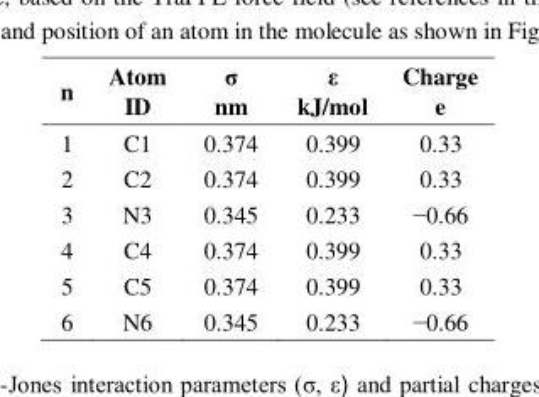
<table><thead><tr><td>n</td><td>Atom ID</td><td>σ nm</td><td>ε kJ/mol</td><td>Charge e</td></tr></thead><tbody><tr><td>1</td><td>C1</td><td>0.374</td><td>0.399</td><td>0.33</td></tr><tr><td>2</td><td>C2</td><td>0.374</td><td>0.399</td><td>0.33</td></tr><tr><td>3</td><td>N3</td><td>0.345</td><td>0.233</td><td>−0.66</td></tr><tr><td>4</td><td>C4</td><td>0.374</td><td>0.399</td><td>0.33</td></tr><tr><td>5</td><td>C5</td><td>0.374</td><td>0.399</td><td>0.33</td></tr><tr><td>6</td><td>N6</td><td>0.345</td><td>0.233</td><td>−0.66</td></tr></tbody></table>